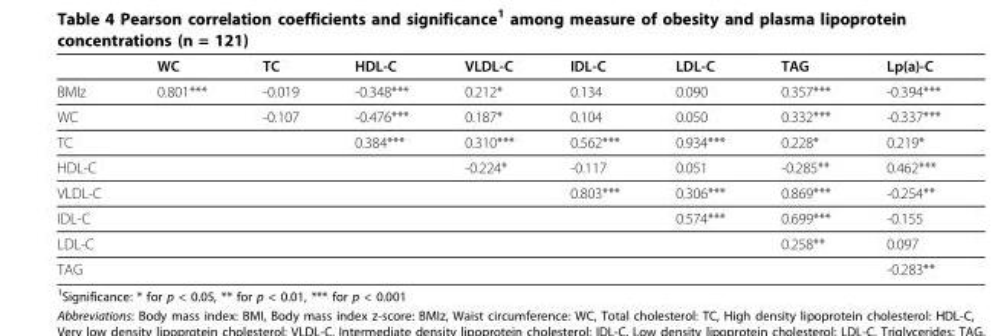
<table><thead><tr><td></td><td>WC</td><td>TC</td><td>HDL-C</td><td>VLDL-C</td><td>IDL-C</td><td>LDL-C</td><td>TAG</td><td>Lp(a)-C</td></tr></thead><tbody><tr><td>BMIz</td><td>0.801***</td><td>-0.019</td><td>-0.348***</td><td>0.212*</td><td>0.134</td><td>0.090</td><td>0.357***</td><td>-0.394***</td></tr><tr><td>WC</td><td></td><td>-0.107</td><td>-0.476***</td><td>0.187*</td><td>0.104</td><td>0.050</td><td>0.332***</td><td>-0.337***</td></tr><tr><td>TC</td><td></td><td></td><td>0.384***</td><td>0.310***</td><td>0.562***</td><td>0.934***</td><td>0.228*</td><td>0.219*</td></tr><tr><td>HDL-C</td><td></td><td></td><td></td><td>-0.224*</td><td>-0.117</td><td>0.051</td><td>-0.285**</td><td>0.462***</td></tr><tr><td>VLDL-C</td><td></td><td></td><td></td><td></td><td>0.803***</td><td>0.306***</td><td>0.869***</td><td>-0.254**</td></tr><tr><td>IDL-C</td><td></td><td></td><td></td><td></td><td></td><td>0.574***</td><td>0.699***</td><td>-0.155</td></tr><tr><td>LDL-C</td><td></td><td></td><td></td><td></td><td></td><td></td><td>0.258**</td><td>0.097</td></tr><tr><td>TAG</td><td></td><td></td><td></td><td></td><td></td><td></td><td></td><td>-0.283**</td></tr></tbody></table>